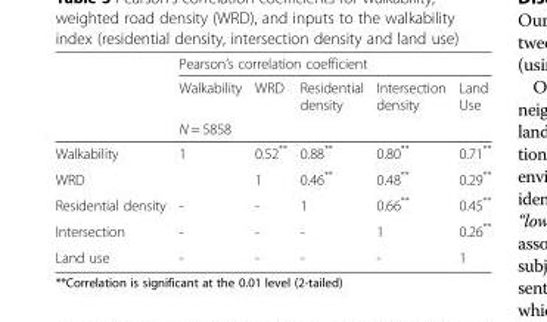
<table><thead><tr><td rowspan="3"></td><td colspan="5">Pearson’s correlation coefficient</td></tr><tr><td>Walkability</td><td>WRD</td><td>Residential density</td><td>Intersection density</td><td>Land Use</td></tr><tr><td colspan="5">N = 5858</td></tr></thead><tbody><tr><td>Walkability</td><td>1</td><td>0.52**</td><td>0.88**</td><td>0.80**</td><td>0.71**</td></tr><tr><td>WRD</td><td></td><td>1</td><td>0.46**</td><td>0.48**</td><td>0.29**</td></tr><tr><td>Residential density</td><td>-</td><td>-</td><td>1</td><td>0.66**</td><td>0.45**</td></tr><tr><td>Intersection</td><td>-</td><td>-</td><td>-</td><td>1</td><td>0.26**</td></tr><tr><td>Land use</td><td>-</td><td>-</td><td>-</td><td>-</td><td>1</td></tr></tbody></table>